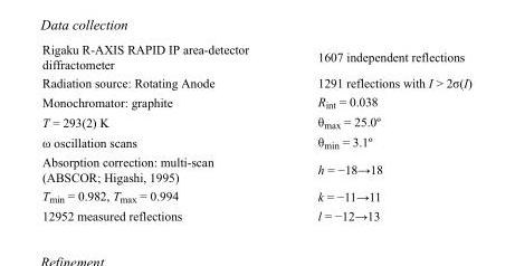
<table><tbody><tr><td>Rigaku R-AXIS RAPID IP area-detector diffractometer</td><td>1607 independent reflections</td></tr><tr><td>Radiation source: Rotating Anode</td><td>1291 reflections with I &gt; 2σ(I)</td></tr><tr><td>Monochromator: graphite</td><td>R<sub>int</sub> = 0.038</td></tr><tr><td>T = 293(2) K</td><td>θ<sub>max</sub> = 25.0º</td></tr><tr><td>ω oscillation scans</td><td>θ<sub>min</sub> = 3.1º</td></tr><tr><td>Absorption correction: multi-scan (ABSCOR; Higashi, 1995)</td><td>h = −18→18</td></tr><tr><td>T<sub>min</sub> = 0.982, T<sub>max</sub> = 0.994</td><td>k = −11→11</td></tr><tr><td>12952 measured reflections</td><td>l = −12→13</td></tr></tbody></table>